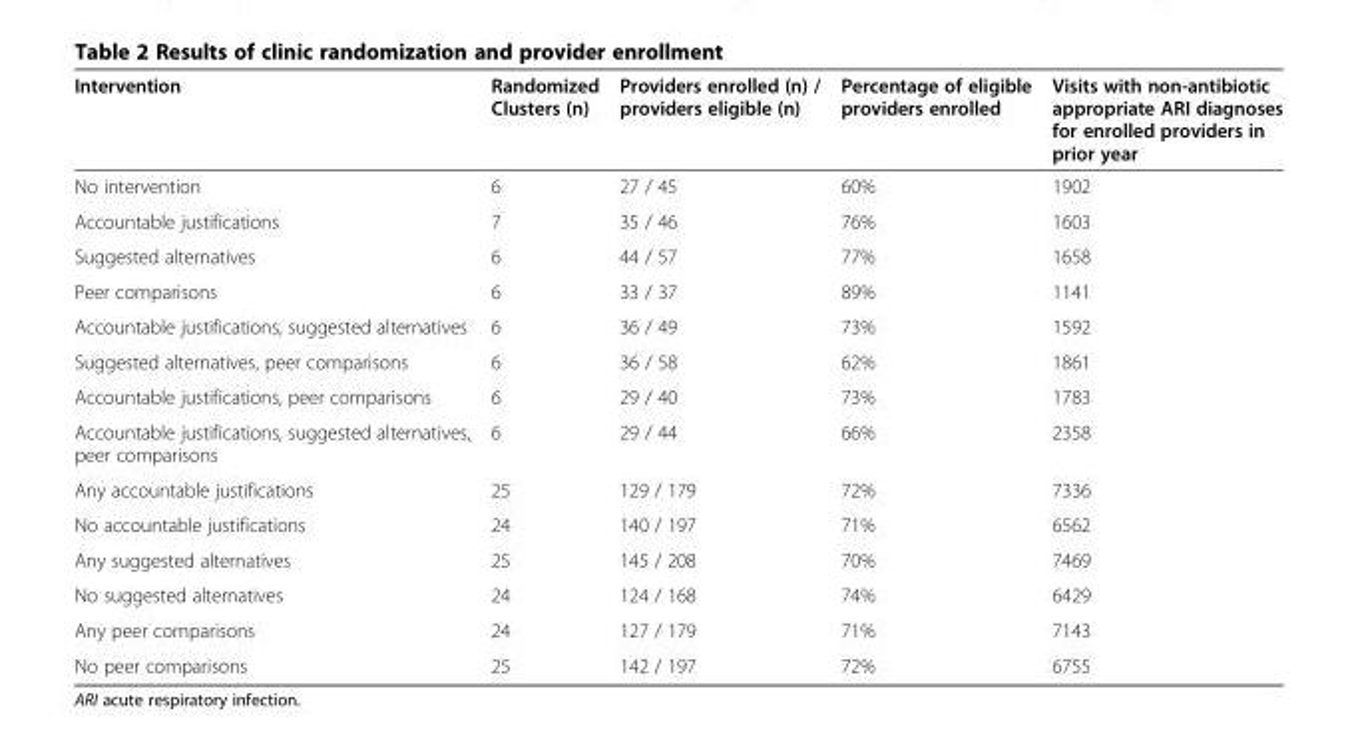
<table><thead><tr><td>Intervention</td><td>Randomized Clusters (n)</td><td>Providers enrolled (n) / providers eligible (n)</td><td>Percentage of eligible providers enrolled</td><td>Visits with non-antibiotic appropriate ARI diagnoses for enrolled providers in prior year</td></tr></thead><tbody><tr><td>No intervention</td><td>6</td><td>27 / 45</td><td>60%</td><td>1902</td></tr><tr><td>Accountable justifications</td><td>7</td><td>35 / 46</td><td>76%</td><td>1603</td></tr><tr><td>Suggested alternatives</td><td>6</td><td>44 / 57</td><td>77%</td><td>1658</td></tr><tr><td>Peer comparisons</td><td>6</td><td>33 / 37</td><td>89%</td><td>1141</td></tr><tr><td>Accountable justifications, suggested alternatives</td><td>6</td><td>36 / 49</td><td>73%</td><td>1592</td></tr><tr><td>Suggested alternatives, peer comparisons</td><td>6</td><td>36 / 58</td><td>62%</td><td>1861</td></tr><tr><td>Accountable justifications, peer comparisons</td><td>6</td><td>29 / 40</td><td>73%</td><td>1783</td></tr><tr><td>Accountable justifications, suggested alternatives, peer comparisons</td><td>6</td><td>29 / 44</td><td>66%</td><td>2358</td></tr><tr><td>Any accountable justifications</td><td>25</td><td>129 / 179</td><td>72%</td><td>7336</td></tr><tr><td>No accountable justifications</td><td>24</td><td>140 / 197</td><td>71%</td><td>6562</td></tr><tr><td>Any suggested alternatives</td><td>25</td><td>145 / 208</td><td>70%</td><td>7469</td></tr><tr><td>No suggested alternatives</td><td>24</td><td>124 / 168</td><td>74%</td><td>6429</td></tr><tr><td>Any peer comparisons</td><td>24</td><td>127 / 179</td><td>71%</td><td>7143</td></tr><tr><td>No peer comparisons</td><td>25</td><td>142 / 197</td><td>72%</td><td>6755</td></tr></tbody></table>